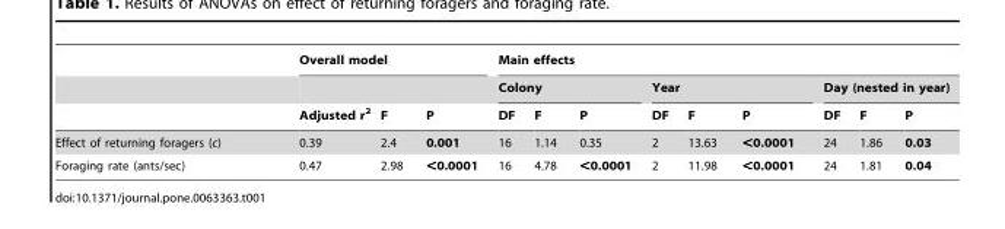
<table><thead><tr><td rowspan="3"></td><td colspan="3">Overall model</td><td colspan="9">Main effects</td></tr><tr><td rowspan="2">Adjusted r<sup>2</sup></td><td rowspan="2">F</td><td rowspan="2">P</td><td colspan="3">Colony</td><td colspan="3">Year</td><td colspan="3">Day (nested in year)</td></tr><tr><td>DF</td><td>F</td><td>P</td><td>DF</td><td>F</td><td>P</td><td>DF</td><td>F</td><td>P</td></tr></thead><tbody><tr><td>Effect of returning foragers (c)</td><td>0.39</td><td>2.4</td><td>0.001</td><td>16</td><td>1.14</td><td>0.35</td><td>2</td><td>13.63</td><td>&lt;0.0001</td><td>24</td><td>1.86</td><td>0.03</td></tr><tr><td>Foraging rate (ants/sec)</td><td>0.47</td><td>2.98</td><td>&lt;0.0001</td><td>16</td><td>4.78</td><td>&lt;0.0001</td><td>2</td><td>11.98</td><td>&lt;0.0001</td><td>24</td><td>1.81</td><td>0.04</td></tr></tbody></table>